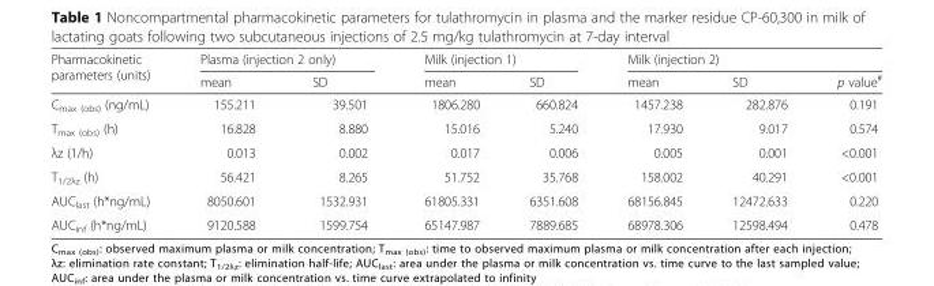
<table><thead><tr><td rowspan="2">Pharmacokinetic parameters (units)</td><td colspan="2">Plasma (injection 2 only)</td><td colspan="2">Milk (injection 1)</td><td colspan="3">Milk (injection 2)</td></tr><tr><td>mean</td><td>SD</td><td>mean</td><td>SD</td><td>mean</td><td>SD</td><td>p value<sup>#</sup></td></tr></thead><tbody><tr><td>C<sub>max (obs)</sub> (ng/mL)</td><td>155.211</td><td>39.501</td><td>1806.280</td><td>660.824</td><td>1457.238</td><td>282.876</td><td>0.191</td></tr><tr><td>T<sub>max (obs)</sub> (h)</td><td>16.828</td><td>8.880</td><td>15.016</td><td>5.240</td><td>17.930</td><td>9.017</td><td>0.574</td></tr><tr><td>λz (1/h)</td><td>0.013</td><td>0.002</td><td>0.017</td><td>0.006</td><td>0.005</td><td>0.001</td><td>&lt;0.001</td></tr><tr><td>T<sub>1/2λz</sub> (h)</td><td>56.421</td><td>8.265</td><td>51.752</td><td>35.768</td><td>158.002</td><td>40.291</td><td>&lt;0.001</td></tr><tr><td>AUC<sub>last</sub> (h*ng/mL)</td><td>8050.601</td><td>1532.931</td><td>61805.331</td><td>6351.608</td><td>68156.845</td><td>12472.633</td><td>0.220</td></tr><tr><td>AUC<sub>inf</sub> (h*ng/mL)</td><td>9120.588</td><td>1599.754</td><td>65147.987</td><td>7889.685</td><td>68978.306</td><td>12598.494</td><td>0.478</td></tr></tbody></table>